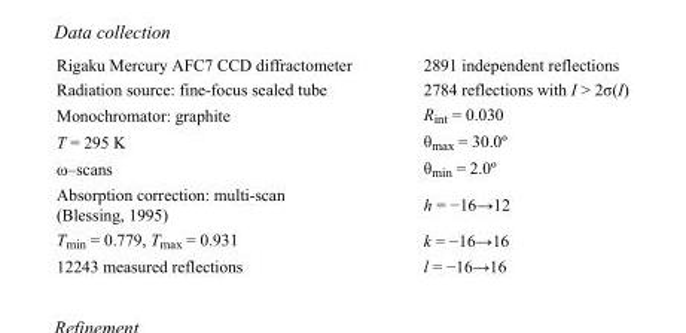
<table><tbody><tr><td>Rigaku Mercury AFC7 CCD diffractometer</td><td>2891 independent reflections</td></tr><tr><td>Radiation source: fine-focus sealed tube</td><td>2784 reflections with I &gt; 2σ(I)</td></tr><tr><td>Monochromator: graphite</td><td>R<sub>int</sub> = 0.030</td></tr><tr><td>T = 295 K</td><td>θ<sub>max</sub> = 30.0º</td></tr><tr><td>ω–scans</td><td>θ<sub>min</sub> = 2.0º</td></tr><tr><td>Absorption correction: multi-scan (Blessing, 1995)</td><td>h = −16→12</td></tr><tr><td>T<sub>min</sub> = 0.779, T<sub>max</sub> = 0.931</td><td>k = −16→16</td></tr><tr><td>12243 measured reflections</td><td>l = −16→16</td></tr></tbody></table>